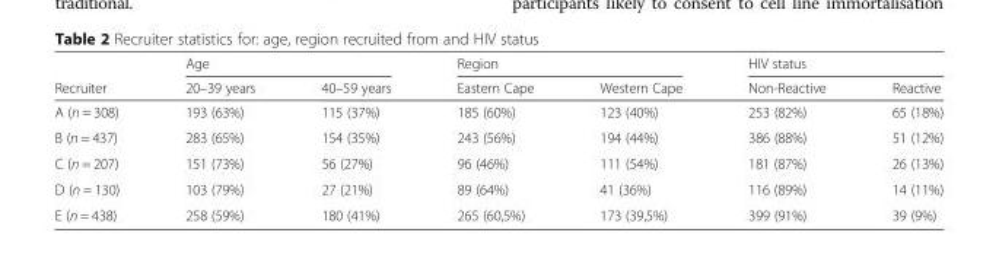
<table><thead><tr><td rowspan="2">Recruiter</td><td colspan="2">Age</td><td colspan="2">Region</td><td colspan="2">HIV status</td></tr><tr><td>20–39 years</td><td>40–59 years</td><td>Eastern Cape</td><td>Western Cape</td><td>Non-Reactive</td><td>Reactive</td></tr></thead><tbody><tr><td>A (n = 308)</td><td>193 (63%)</td><td>115 (37%)</td><td>185 (60%)</td><td>123 (40%)</td><td>253 (82%)</td><td>65 (18%)</td></tr><tr><td>B (n = 437)</td><td>283 (65%)</td><td>154 (35%)</td><td>243 (56%)</td><td>194 (44%)</td><td>386 (88%)</td><td>51 (12%)</td></tr><tr><td>C (n = 207)</td><td>151 (73%)</td><td>56 (27%)</td><td>96 (46%)</td><td>111 (54%)</td><td>181 (87%)</td><td>26 (13%)</td></tr><tr><td>D (n = 130)</td><td>103 (79%)</td><td>27 (21%)</td><td>89 (64%)</td><td>41 (36%)</td><td>116 (89%)</td><td>14 (11%)</td></tr><tr><td>E (n = 438)</td><td>258 (59%)</td><td>180 (41%)</td><td>265 (60,5%)</td><td>173 (39,5%)</td><td>399 (91%)</td><td>39 (9%)</td></tr></tbody></table>